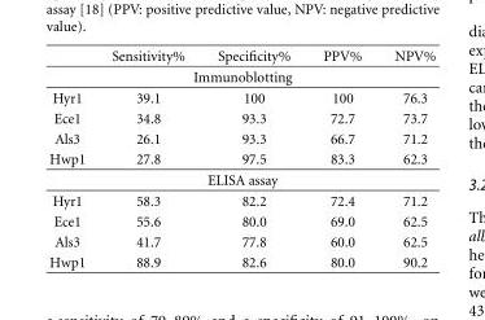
<table><thead><tr><td></td><td>Sensitivity%</td><td>Specificity%</td><td>PPV%</td><td>NPV%</td></tr></thead><tbody><tr><td colspan="5">Immunoblotting</td></tr><tr><td>Hyr1</td><td>39.1</td><td>100</td><td>100</td><td>76.3</td></tr><tr><td>Ece1</td><td>34.8</td><td>93.3</td><td>72.7</td><td>73.7</td></tr><tr><td>Als3</td><td>26.1</td><td>93.3</td><td>66.7</td><td>71.2</td></tr><tr><td>Hwp1</td><td>27.8</td><td>97.5</td><td>83.3</td><td>62.3</td></tr><tr><td colspan="5">ELISA assay</td></tr><tr><td>Hyr1</td><td>58.3</td><td>82.2</td><td>72.4</td><td>71.2</td></tr><tr><td>Ece1</td><td>55.6</td><td>80.0</td><td>69.0</td><td>62.5</td></tr><tr><td>Als3</td><td>41.7</td><td>77.8</td><td>60.0</td><td>62.5</td></tr><tr><td>Hwp1</td><td>88.9</td><td>82.6</td><td>80.0</td><td>90.2</td></tr></tbody></table>